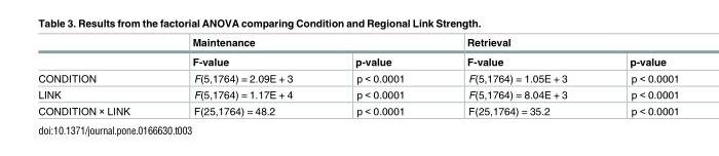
<table><thead><tr><td rowspan="2"></td><td colspan="2">Maintenance</td><td colspan="2">Retrieval</td></tr><tr><td>F-value</td><td>p-value</td><td>F-value</td><td>p-value</td></tr></thead><tbody><tr><td>CONDITION</td><td>F(5,1764) = 2.09E + 3</td><td>p &lt; 0.0001</td><td>F(5,1764) = 1.05E + 3</td><td>p &lt; 0.0001</td></tr><tr><td>LINK</td><td>F(5,1764) = 1.17E + 4</td><td>p &lt; 0.0001</td><td>F(5,1764) = 8.04E + 3</td><td>p &lt; 0.0001</td></tr><tr><td>CONDITION × LINK</td><td>F(25,1764) = 48.2</td><td>p &lt; 0.0001</td><td>F(25,1764) = 35.2</td><td>p &lt; 0.0001</td></tr></tbody></table>